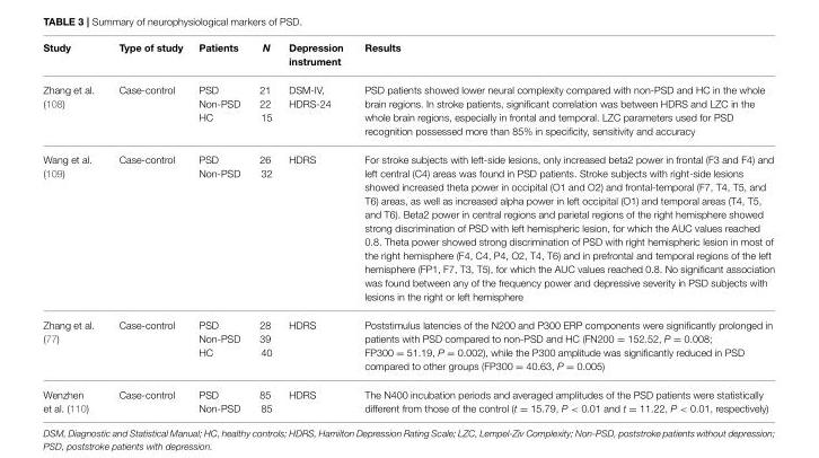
<table><thead><tr><td>Study</td><td>Type of study</td><td>Patients</td><td>N</td><td>Depression instrument</td><td>Results</td></tr></thead><tbody><tr><td>Zhang et al. (108)</td><td>Case-control</td><td>PSD Non-PSD HC</td><td>21 22 15</td><td>DSM-IV, HDRS-24</td><td>PSD patients showed lower neural complexity compared with non-PSD and HC in the whole brain regions. In stroke patients, significant correlation was between HDRS and LZC in the whole brain regions, especially in frontal and temporal. LZC parameters used for PSD recognition possessed more than 85% in specificity, sensitivity and accuracy</td></tr><tr><td>Wang et al. (109)</td><td>Case-control</td><td>PSD Non-PSD</td><td>26 32</td><td>HDRS</td><td>For stroke subjects with left-side lesions, only increased beta2 power in frontal (F3 and F4) and left central (C4) areas was found in PSD patients. Stroke subjects with right-side lesions showed increased theta power in occipital (O1 and O2) and frontal-temporal (F7, T4, T5, and T6) areas, as well as increased alpha power in left occipital (O1) and temporal areas (T4, T5, and T6). Beta2 power in central regions and parietal regions of the right hemisphere showed strong discrimination of PSD with left hemispheric lesion, for which the AUC values reached 0.8. Theta power showed strong discrimination of PSD with right hemispheric lesion in most of the right hemisphere (F4, C4, P4, O2, T4, T6) and in prefrontal and temporal regions of the left hemisphere (FP1, F7, T3, T5), for which the AUC values reached 0.8. No significant association was found between any of the frequency power and depressive severity in PSD subjects with lesions in the right or left hemisphere</td></tr><tr><td>Zhang et al. (77)</td><td>Case-control</td><td>PSD Non-PSD HC</td><td>28 39 40</td><td>HDRS</td><td>Poststimulus latencies of the N200 and P300 ERP components were significantly prolonged in patients with PSD compared to non-PSD and HC (FN200 = 152.52, P = 0.008; FP300 = 51.19, P = 0.002), while the P300 amplitude was significantly reduced in PSD compared to other groups (FP300 = 40.63, P = 0.005)</td></tr><tr><td>Wenzhen et al. (110)</td><td>Case-control</td><td>PSD Non-PSD</td><td>85 85</td><td>HDRS</td><td>The N400 incubation periods and averaged amplitudes of the PSD patients were statistically different from those of the control (t = 15.79, P &lt; 0.01 and t = 11.22, P &lt; 0.01, respectively)</td></tr></tbody></table>